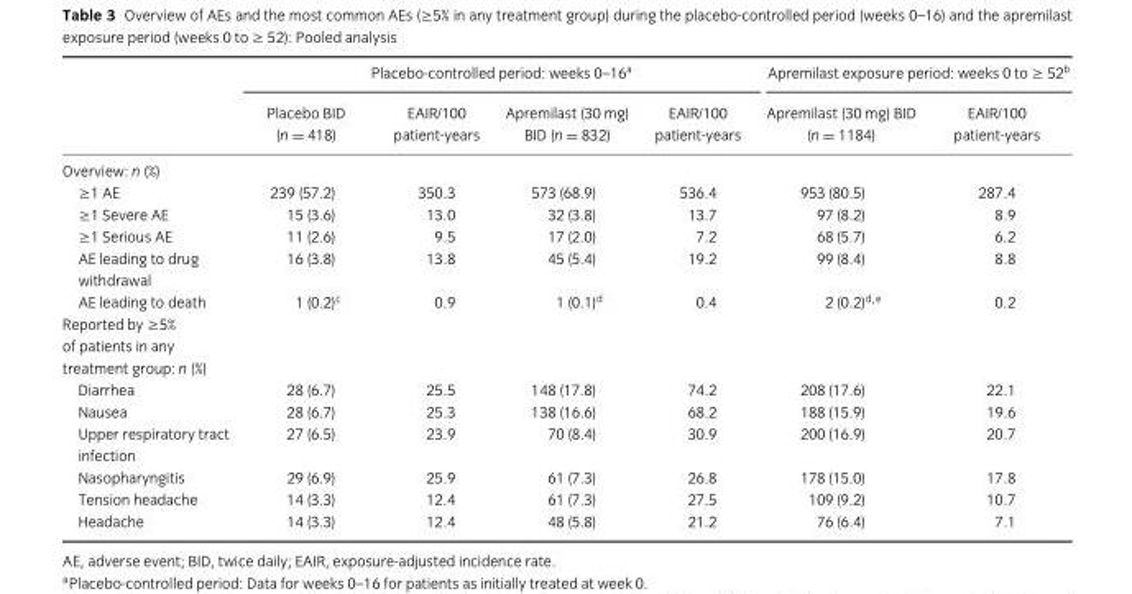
<table><thead><tr><td rowspan="2"></td><td colspan="4">Placebo-controlled period: weeks 0–16<sup>a</sup></td><td colspan="2">Apremilast exposure period: weeks 0 to ≥ 52<sup>b</sup></td></tr><tr><td>Placebo BID (n = 418)</td><td>EAIR/100 patient-years</td><td>Apremilast (30 mg) BID (n = 832)</td><td>EAIR/100 patient-years</td><td>Apremilast (30 mg) BID (n = 1184)</td><td>EAIR/100 patient-years</td></tr></thead><tbody><tr><td colspan="7">Overview: n (%)</td></tr><tr><td>≥1 AE</td><td>239 (57.2)</td><td>350.3</td><td>573 (68.9)</td><td>536.4</td><td>953 (80.5)</td><td>287.4</td></tr><tr><td>≥1 Severe AE</td><td>15 (3.6)</td><td>13.0</td><td>32 (3.8)</td><td>13.7</td><td>97 (8.2)</td><td>8.9</td></tr><tr><td>≥1 Serious AE</td><td>11 (2.6)</td><td>9.5</td><td>17 (2.0)</td><td>7.2</td><td>68 (5.7)</td><td>6.2</td></tr><tr><td>AE leading to drug withdrawal</td><td>16 (3.8)</td><td>13.8</td><td>45 (5.4)</td><td>19.2</td><td>99 (8.4)</td><td>8.8</td></tr><tr><td>AE leading to death</td><td>1 (0.2)<sup>c</sup></td><td>0.9</td><td>1 (0.1)<sup>d</sup></td><td>0.4</td><td>2 (0.2)<sup>d</sup>,<sup>e</sup></td><td>0.2</td></tr><tr><td colspan="7">Reported by ≥5% of patients in any treatment group: n (%)</td></tr><tr><td>Diarrhea</td><td>28 (6.7)</td><td>25.5</td><td>148 (17.8)</td><td>74.2</td><td>208 (17.6)</td><td>22.1</td></tr><tr><td>Nausea</td><td>28 (6.7)</td><td>25.3</td><td>138 (16.6)</td><td>68.2</td><td>188 (15.9)</td><td>19.6</td></tr><tr><td>Upper respiratory tract infection</td><td>27 (6.5)</td><td>23.9</td><td>70 (8.4)</td><td>30.9</td><td>200 (16.9)</td><td>20.7</td></tr><tr><td>Nasopharyngitis</td><td>29 (6.9)</td><td>25.9</td><td>61 (7.3)</td><td>26.8</td><td>178 (15.0)</td><td>17.8</td></tr><tr><td>Tension headache</td><td>14 (3.3)</td><td>12.4</td><td>61 (7.3)</td><td>27.5</td><td>109 (9.2)</td><td>10.7</td></tr><tr><td>Headache</td><td>14 (3.3)</td><td>12.4</td><td>48 (5.8)</td><td>21.2</td><td>76 (6.4)</td><td>7.1</td></tr></tbody></table>